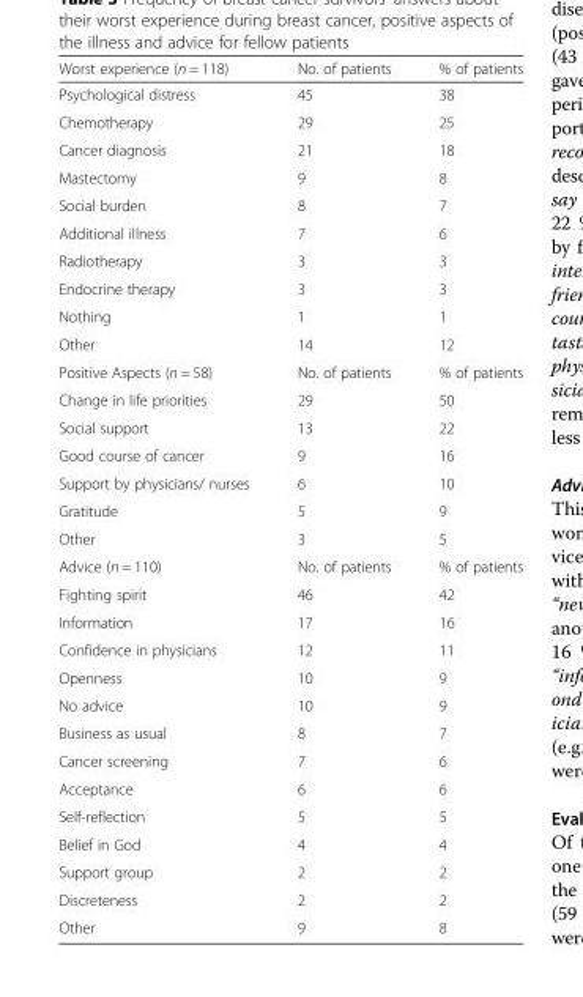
<table><thead><tr><td>Worst experience (n = 118)</td><td>No. of patients</td><td>% of patients</td></tr></thead><tbody><tr><td>Psychological distress</td><td>45</td><td>38</td></tr><tr><td>Chemotherapy</td><td>29</td><td>25</td></tr><tr><td>Cancer diagnosis</td><td>21</td><td>18</td></tr><tr><td>Mastectomy</td><td>9</td><td>8</td></tr><tr><td>Social burden</td><td>8</td><td>7</td></tr><tr><td>Additional illness</td><td>7</td><td>6</td></tr><tr><td>Radiotherapy</td><td>3</td><td>3</td></tr><tr><td>Endocrine therapy</td><td>3</td><td>3</td></tr><tr><td>Nothing</td><td>1</td><td>1</td></tr><tr><td>Other</td><td>14</td><td>12</td></tr><tr><td>Positive Aspects (n = 58)</td><td>No. of patients</td><td>% of patients</td></tr><tr><td>Change in life priorities</td><td>29</td><td>50</td></tr><tr><td>Social support</td><td>13</td><td>22</td></tr><tr><td>Good course of cancer</td><td>9</td><td>16</td></tr><tr><td>Support by physicians/ nurses</td><td>6</td><td>10</td></tr><tr><td>Gratitude</td><td>5</td><td>9</td></tr><tr><td>Other</td><td>3</td><td>5</td></tr><tr><td>Advice (n = 110)</td><td>No. of patients</td><td>% of patients</td></tr><tr><td>Fighting spirit</td><td>46</td><td>42</td></tr><tr><td>Information</td><td>17</td><td>16</td></tr><tr><td>Confidence in physicians</td><td>12</td><td>11</td></tr><tr><td>Openness</td><td>10</td><td>9</td></tr><tr><td>No advice</td><td>10</td><td>9</td></tr><tr><td>Business as usual</td><td>8</td><td>7</td></tr><tr><td>Cancer screening</td><td>7</td><td>6</td></tr><tr><td>Acceptance</td><td>6</td><td>6</td></tr><tr><td>Self-reflection</td><td>5</td><td>5</td></tr><tr><td>Belief in God</td><td>4</td><td>4</td></tr><tr><td>Support group</td><td>2</td><td>2</td></tr><tr><td>Discreteness</td><td>2</td><td>2</td></tr><tr><td>Other</td><td>9</td><td>8</td></tr></tbody></table>